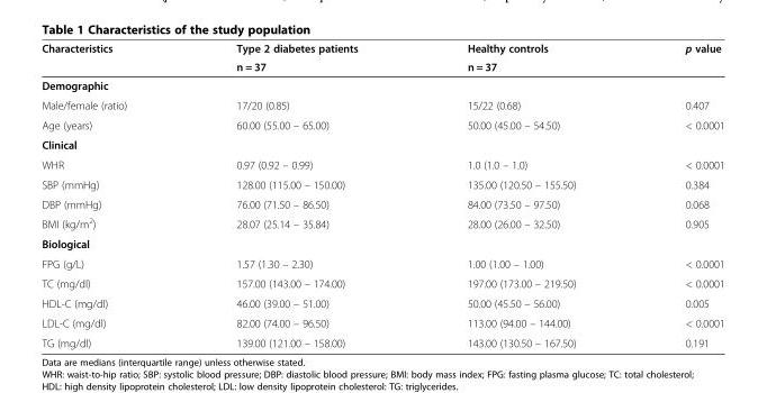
<table><thead><tr><td rowspan="2">Characteristics</td><td rowspan="2">Type 2 diabetes patients n = 37</td><td rowspan="2">Healthy controls n = 37</td><td rowspan="2">p value</td></tr><tr></tr></thead><tbody><tr><td colspan="4">Demographic</td></tr><tr><td>Male/female (ratio)</td><td>17/20 (0.85)</td><td>15/22 (0.68)</td><td>0.407</td></tr><tr><td>Age (years)</td><td>60.00 (55.00 – 65.00)</td><td>50.00 (45.00 – 54.50)</td><td>&lt; 0.0001</td></tr><tr><td colspan="4">Clinical</td></tr><tr><td>WHR</td><td>0.97 (0.92 – 0.99)</td><td>1.0 (1.0 – 1.0)</td><td>&lt; 0.0001</td></tr><tr><td>SBP (mmHg)</td><td>128.00 (115.00 – 150.00)</td><td>135.00 (120.50 – 155.50)</td><td>0.384</td></tr><tr><td>DBP (mmHg)</td><td>76.00 (71.50 – 86.50)</td><td>84.00 (73.50 – 97.50)</td><td>0.068</td></tr><tr><td>BMI (kg/m<sup>2</sup>)</td><td>28.07 (25.14 – 35.84)</td><td>28.00 (26.00 – 32.50)</td><td>0.905</td></tr><tr><td colspan="4">Biological</td></tr><tr><td>FPG (g/L)</td><td>1.57 (1.30 – 2.30)</td><td>1.00 (1.00 – 1.00)</td><td>&lt; 0.0001</td></tr><tr><td>TC (mg/dl)</td><td>157.00 (143.00 – 174.00)</td><td>197.00 (173.00 – 219.50)</td><td>&lt; 0.0001</td></tr><tr><td>HDL-C (mg/dl)</td><td>46.00 (39.00 – 51.00)</td><td>50.00 (45.50 – 56.00)</td><td>0.005</td></tr><tr><td>LDL-C (mg/dl)</td><td>82.00 (74.00 – 96.50)</td><td>113.00 (94.00 – 144.00)</td><td>&lt; 0.0001</td></tr><tr><td>TG (mg/dl)</td><td>139.00 (121.00 – 158.00)</td><td>143.00 (130.50 – 167.50)</td><td>0.191</td></tr></tbody></table>